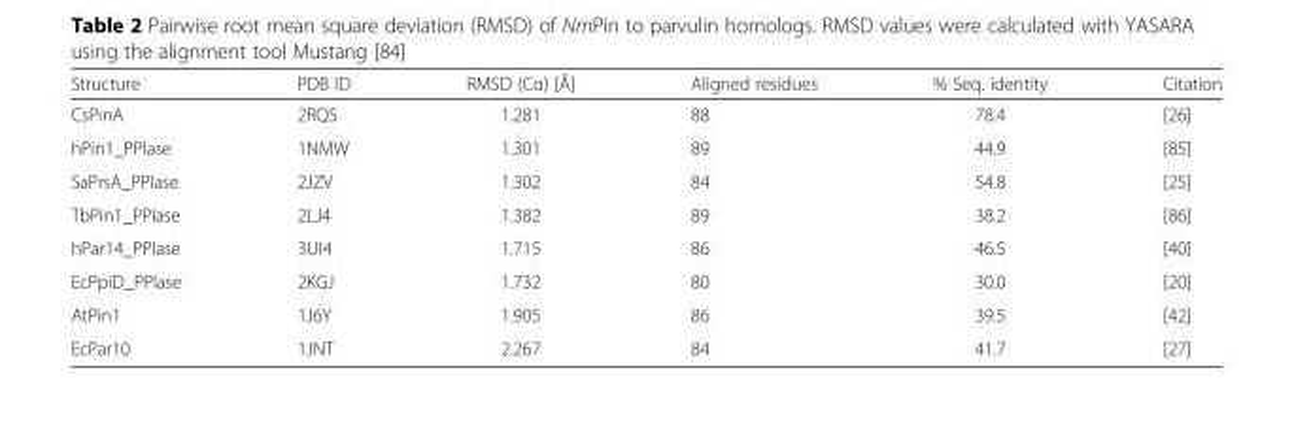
<table><thead><tr><td>Structure</td><td>PDB ID</td><td>RMSD (Cα) [Å]</td><td>Aligned residues</td><td>% Seq. identity</td><td>Citation</td></tr></thead><tbody><tr><td>CsPinA</td><td>2RQS</td><td>1.281</td><td>88</td><td>78.4</td><td>[26]</td></tr><tr><td>hPin1_PPIase</td><td>1NMW</td><td>1.301</td><td>89</td><td>44.9</td><td>[85]</td></tr><tr><td>SaPrsA_PPIase</td><td>2JZV</td><td>1.302</td><td>84</td><td>54.8</td><td>[25]</td></tr><tr><td>TbPin1_PPIase</td><td>2LJ4</td><td>1.382</td><td>89</td><td>38.2</td><td>[86]</td></tr><tr><td>hPar14_PPIase</td><td>3UI4</td><td>1.715</td><td>86</td><td>46.5</td><td>[40]</td></tr><tr><td>EcPpiD_PPIase</td><td>2KGJ</td><td>1.732</td><td>80</td><td>30.0</td><td>[20]</td></tr><tr><td>AtPin1</td><td>1J6Y</td><td>1.905</td><td>86</td><td>39.5</td><td>[42]</td></tr><tr><td>EcPar10</td><td>1JNT</td><td>2.267</td><td>84</td><td>41.7</td><td>[27]</td></tr></tbody></table>